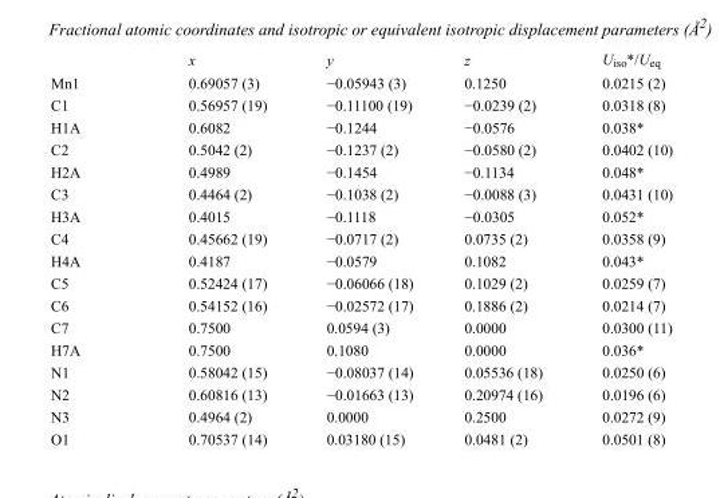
<table><thead><tr><td></td><td>x</td><td>y</td><td>z</td><td>U<sub>iso</sub>*/U<sub>eq</sub></td></tr></thead><tbody><tr><td>Mn1</td><td>0.69057 (3)</td><td>−0.05943 (3)</td><td>0.1250</td><td>0.0215 (2)</td></tr><tr><td>C1</td><td>0.56957 (19)</td><td>−0.11100 (19)</td><td>−0.0239 (2)</td><td>0.0318 (8)</td></tr><tr><td>H1A</td><td>0.6082</td><td>−0.1244</td><td>−0.0576</td><td>0.038*</td></tr><tr><td>C2</td><td>0.5042 (2)</td><td>−0.1237 (2)</td><td>−0.0580 (2)</td><td>0.0402 (10)</td></tr><tr><td>H2A</td><td>0.4989</td><td>−0.1454</td><td>−0.1134</td><td>0.048*</td></tr><tr><td>C3</td><td>0.4464 (2)</td><td>−0.1038 (2)</td><td>−0.0088 (3)</td><td>0.0431 (10)</td></tr><tr><td>H3A</td><td>0.4015</td><td>−0.1118</td><td>−0.0305</td><td>0.052*</td></tr><tr><td>C4</td><td>0.45662 (19)</td><td>−0.0717 (2)</td><td>0.0735 (2)</td><td>0.0358 (9)</td></tr><tr><td>H4A</td><td>0.4187</td><td>−0.0579</td><td>0.1082</td><td>0.043*</td></tr><tr><td>C5</td><td>0.52424 (17)</td><td>−0.06066 (18)</td><td>0.1029 (2)</td><td>0.0259 (7)</td></tr><tr><td>C6</td><td>0.54152 (16)</td><td>−0.02572 (17)</td><td>0.1886 (2)</td><td>0.0214 (7)</td></tr><tr><td>C7</td><td>0.7500</td><td>0.0594 (3)</td><td>0.0000</td><td>0.0300 (11)</td></tr><tr><td>H7A</td><td>0.7500</td><td>0.1080</td><td>0.0000</td><td>0.036*</td></tr><tr><td>N1</td><td>0.58042 (15)</td><td>−0.08037 (14)</td><td>0.05536 (18)</td><td>0.0250 (6)</td></tr><tr><td>N2</td><td>0.60816 (13)</td><td>−0.01663 (13)</td><td>0.20974 (16)</td><td>0.0196 (6)</td></tr><tr><td>N3</td><td>0.4964 (2)</td><td>0.0000</td><td>0.2500</td><td>0.0272 (9)</td></tr><tr><td>O1</td><td>0.70537 (14)</td><td>0.03180 (15)</td><td>0.0481 (2)</td><td>0.0501 (8)</td></tr></tbody></table>